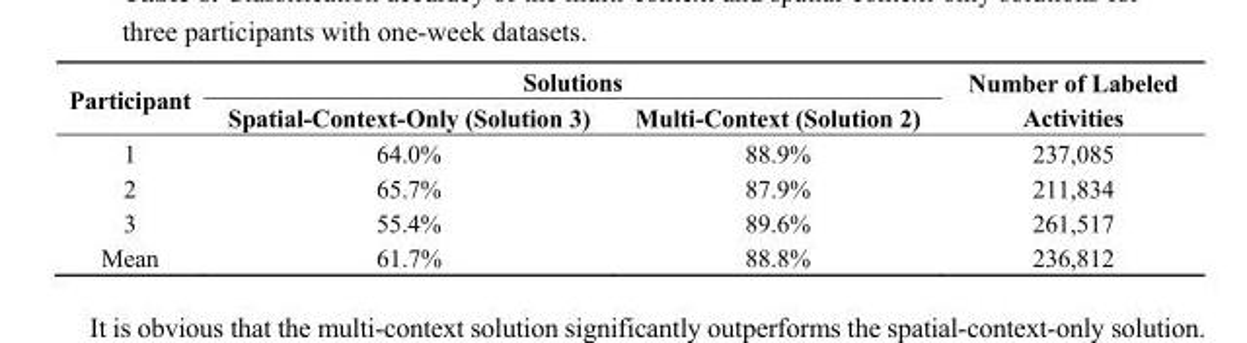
<table><thead><tr><td rowspan="2">Participant</td><td colspan="2">Solutions</td><td rowspan="2">Number of Labeled Activities</td></tr><tr><td>Spatial-Context-Only (Solution 3)</td><td>Multi-Context (Solution 2)</td></tr></thead><tbody><tr><td>1</td><td>64.0%</td><td>88.9%</td><td>237,085</td></tr><tr><td>2</td><td>65.7%</td><td>87.9%</td><td>211,834</td></tr><tr><td>3</td><td>55.4%</td><td>89.6%</td><td>261,517</td></tr><tr><td>Mean</td><td>61.7%</td><td>88.8%</td><td>236,812</td></tr></tbody></table>